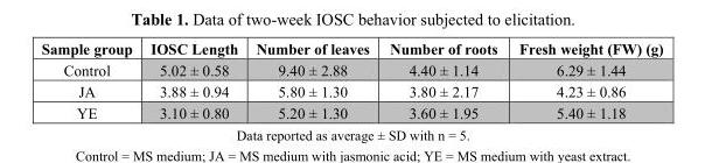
<table><thead><tr><td>Sample group</td><td>IOSC Length</td><td>Number of leaves</td><td>Number of roots</td><td>Fresh weight (FW) (g)</td></tr></thead><tbody><tr><td>Control</td><td>5.02 ± 0.58</td><td>9.40 ± 2.88</td><td>4.40 ± 1.14</td><td>6.29 ± 1.44</td></tr><tr><td>JA</td><td>3.88 ± 0.94</td><td>5.80 ± 1.30</td><td>3.80 ± 2.17</td><td>4.23 ± 0.86</td></tr><tr><td>YE</td><td>3.10 ± 0.80</td><td>5.20 ± 1.30</td><td>3.60 ± 1.95</td><td>5.40 ± 1.18</td></tr></tbody></table>